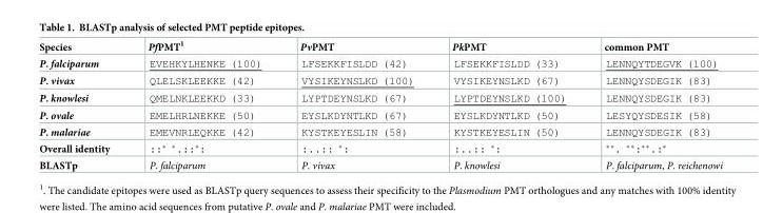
<table><thead><tr><td>Species</td><td>PfPMT<sup>1</sup></td><td>PvPMT</td><td>PkPMT</td><td>common PMT</td></tr></thead><tbody><tr><td>P. falciparum</td><td>EVEHKYLHENKE (100)</td><td>LFSEKKFISLDD (42)</td><td>LFSEKKFISLDD (33)</td><td>LENNQYTDEGVK (100)</td></tr><tr><td>P. vivax</td><td>QLELSKLEEKKE (42)</td><td>VYSIKEYNSLKD (100)</td><td>VYSIKEYNSLKD (67)</td><td>LENNQYSDEGIK (83)</td></tr><tr><td>P. knowlesi</td><td>QMELNKLEEKKD (33)</td><td>LYPTDEYNSLKD (67)</td><td>LYPTDEYNSLKD (100)</td><td>LENNQYSDEGIK (83)</td></tr><tr><td>P. ovale</td><td>EMELHRLNEKKE (50)</td><td>EYSLKDYNTLKD (67)</td><td>EYSLKDYNTLKD (50)</td><td>LESYQYSDESIK (58)</td></tr><tr><td>P. malariae</td><td>EMEVNRLEQKKE (42)</td><td>KYSTKEYESLIN (58)</td><td>KYSTKEYESLIN (50)</td><td>LENNQYSDEGIK (83)</td></tr><tr><td>Overall identity</td><td>::* *.::*:</td><td>:..:: *:</td><td>:..:: *:</td><td>**. **:**.:*</td></tr><tr><td>BLASTp</td><td>P. falciparum</td><td>P. vivax</td><td>P. knowlesi</td><td>P. falciparum, P. reichenowi</td></tr></tbody></table>